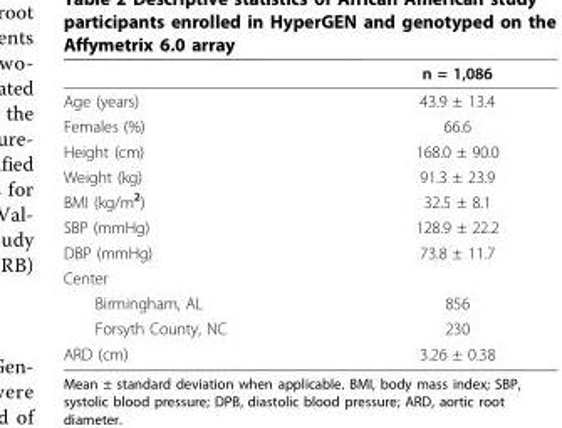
<table><thead><tr><td></td><td>n = 1,086</td></tr></thead><tbody><tr><td>Age (years)</td><td>43.9 ± 13.4</td></tr><tr><td>Females (%)</td><td>66.6</td></tr><tr><td>Height (cm)</td><td>168.0 ± 90.0</td></tr><tr><td>Weight (kg)</td><td>91.3 ± 23.9</td></tr><tr><td>BMI (kg/m<sup>2</sup>)</td><td>32.5 ± 8.1</td></tr><tr><td>SBP (mmHg)</td><td>128.9 ± 22.2</td></tr><tr><td>DBP (mmHg)</td><td>73.8 ± 11.7</td></tr><tr><td colspan="2">Center</td></tr><tr><td>Birmingham, AL</td><td>856</td></tr><tr><td>Forsyth County, NC</td><td>230</td></tr><tr><td>ARD (cm)</td><td>3.26 ± 0.38</td></tr></tbody></table>